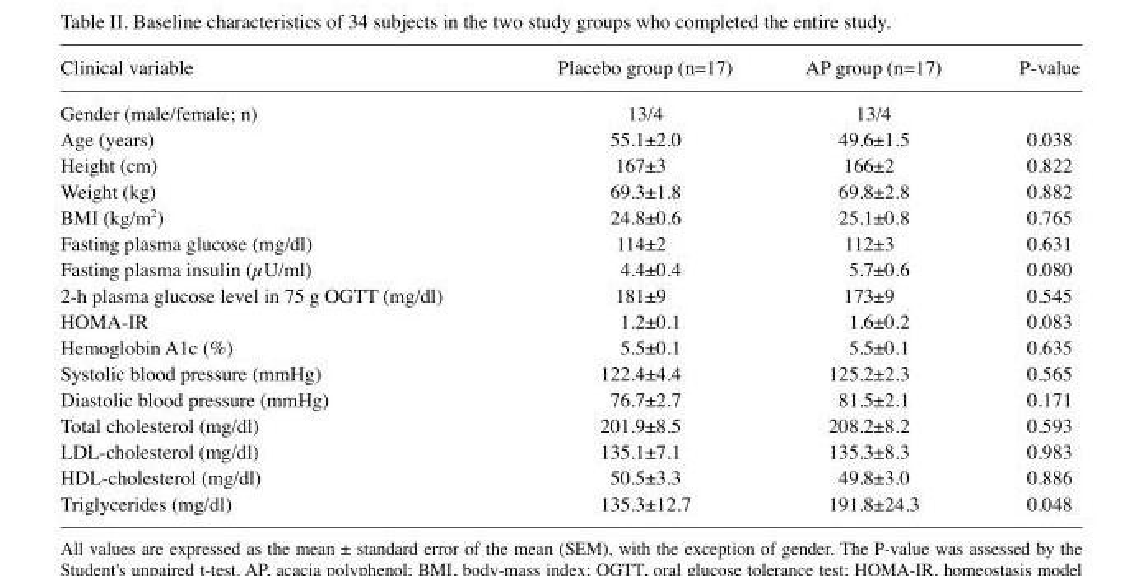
<table><thead><tr><td>Clinical variable</td><td>Placebo group (n=17)</td><td>AP group (n=17)</td><td>P-value</td></tr></thead><tbody><tr><td>Gender (male/female; n)</td><td>13/4</td><td>13/4</td><td></td></tr><tr><td>Age (years)</td><td>55.1±2.0</td><td>49.6±1.5</td><td>0.038</td></tr><tr><td>Height (cm)</td><td>167±3</td><td>166±2</td><td>0.822</td></tr><tr><td>Weight (kg)</td><td>69.3±1.8</td><td>69.8±2.8</td><td>0.882</td></tr><tr><td>BMI (kg/m<sup>2</sup>)</td><td>24.8±0.6</td><td>25.1±0.8</td><td>0.765</td></tr><tr><td>Fasting plasma glucose (mg/dl)</td><td>114±2</td><td>112±3</td><td>0.631</td></tr><tr><td>Fasting plasma insulin (µU/ml)</td><td>4.4±0.4</td><td>5.7±0.6</td><td>0.080</td></tr><tr><td>2-h plasma glucose level in 75 g OGTT (mg/dl)</td><td>181±9</td><td>173±9</td><td>0.545</td></tr><tr><td>HOMA-IR</td><td>1.2±0.1</td><td>1.6±0.2</td><td>0.083</td></tr><tr><td>Hemoglobin A1c (%)</td><td>5.5±0.1</td><td>5.5±0.1</td><td>0.635</td></tr><tr><td>Systolic blood pressure (mmHg)</td><td>122.4±4.4</td><td>125.2±2.3</td><td>0.565</td></tr><tr><td>Diastolic blood pressure (mmHg)</td><td>76.7±2.7</td><td>81.5±2.1</td><td>0.171</td></tr><tr><td>Total cholesterol (mg/dl)</td><td>201.9±8.5</td><td>208.2±8.2</td><td>0.593</td></tr><tr><td>LDL-cholesterol (mg/dl)</td><td>135.1±7.1</td><td>135.3±8.3</td><td>0.983</td></tr><tr><td>HDL-cholesterol (mg/dl)</td><td>50.5±3.3</td><td>49.8±3.0</td><td>0.886</td></tr><tr><td>Triglycerides (mg/dl)</td><td>135.3±12.7</td><td>191.8±24.3</td><td>0.048</td></tr></tbody></table>